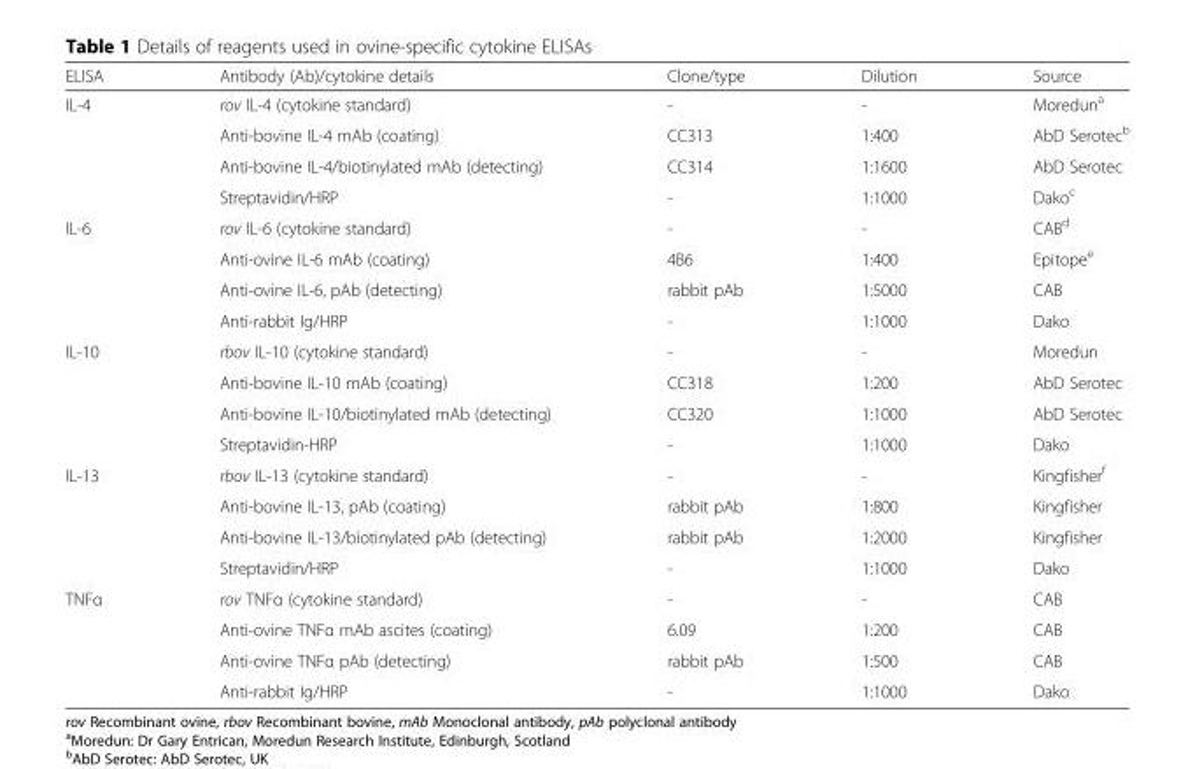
<table><thead><tr><td>ELISA</td><td>Antibody (Ab)/cytokine details</td><td>Clone/type</td><td>Dilution</td><td>Source</td></tr></thead><tbody><tr><td rowspan="4">IL-4</td><td>rov IL-4 (cytokine standard)</td><td>-</td><td>-</td><td>Moredun<sup>a</sup></td></tr><tr><td>Anti-bovine IL-4 mAb (coating)</td><td>CC313</td><td>1:400</td><td>AbD Serotec<sup>b</sup></td></tr><tr><td>Anti-bovine IL-4/biotinylated mAb (detecting)</td><td>CC314</td><td>1:1600</td><td>AbD Serotec</td></tr><tr><td>Streptavidin/HRP</td><td>-</td><td>1:1000</td><td>Dako<sup>c</sup></td></tr><tr><td rowspan="4">IL-6</td><td>rov IL-6 (cytokine standard)</td><td>-</td><td>-</td><td>CAB<sup>d</sup></td></tr><tr><td>Anti-ovine IL-6 mAb (coating)</td><td>4B6</td><td>1:400</td><td>Epitope<sup>e</sup></td></tr><tr><td>Anti-ovine IL-6, pAb (detecting)</td><td>rabbit pAb</td><td>1:5000</td><td>CAB</td></tr><tr><td>Anti-rabbit Ig/HRP</td><td>-</td><td>1:1000</td><td>Dako</td></tr><tr><td rowspan="4">IL-10</td><td>rbov IL-10 (cytokine standard)</td><td>-</td><td>-</td><td>Moredun</td></tr><tr><td>Anti-bovine IL-10 mAb (coating)</td><td>CC318</td><td>1:200</td><td>AbD Serotec</td></tr><tr><td>Anti-bovine IL-10/biotinylated mAb (detecting)</td><td>CC320</td><td>1:1000</td><td>AbD Serotec</td></tr><tr><td>Streptavidin-HRP</td><td>-</td><td>1:1000</td><td>Dako</td></tr><tr><td rowspan="4">IL-13</td><td>rbov IL-13 (cytokine standard)</td><td>-</td><td>-</td><td>Kingfisher<sup>f</sup></td></tr><tr><td>Anti-bovine IL-13, pAb (coating)</td><td>rabbit pAb</td><td>1:800</td><td>Kingfisher</td></tr><tr><td>Anti-bovine IL-13/biotinylated pAb (detecting)</td><td>rabbit pAb</td><td>1:2000</td><td>Kingfisher</td></tr><tr><td>Streptavidin/HRP</td><td>-</td><td>1:1000</td><td>Dako</td></tr><tr><td rowspan="4">TNFα</td><td>rov TNFα (cytokine standard)</td><td>-</td><td>-</td><td>CAB</td></tr><tr><td>Anti-ovine TNFα mAb ascites (coating)</td><td>6.09</td><td>1:200</td><td>CAB</td></tr><tr><td>Anti-ovine TNFα pAb (detecting)</td><td>rabbit pAb</td><td>1:500</td><td>CAB</td></tr><tr><td>Anti-rabbit Ig/HRP</td><td>-</td><td>1:1000</td><td>Dako</td></tr></tbody></table>